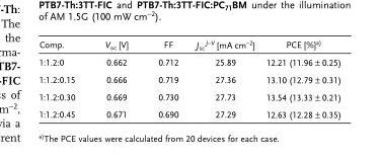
<table><thead><tr><td>Comp.</td><td>V<sub>oc</sub> [V]</td><td>FF</td><td>J<sub>sc</sub> <sup>J–V</sup> [mA cm<sup>−2</sup>]</td><td>PCE [%]a)</td></tr></thead><tbody><tr><td>1:1.2:0</td><td>0.662</td><td>0.712</td><td>25.89</td><td>12.21 (11.96 ± 0.25)</td></tr><tr><td>1:1.2:0.15</td><td>0.666</td><td>0.719</td><td>27.36</td><td>13.10 (12.79 ± 0.31)</td></tr><tr><td>1:1.2:0.30</td><td>0.669</td><td>0.730</td><td>27.73</td><td>13.54 (13.33 ± 0.21)</td></tr><tr><td>1:1.2:0.45</td><td>0.671</td><td>0.690</td><td>27.29</td><td>12.63 (12.28 ± 0.35)</td></tr></tbody></table>